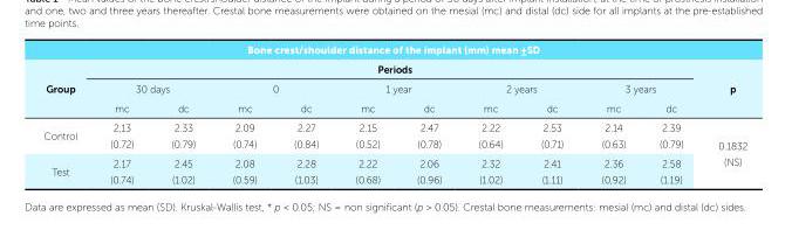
<table><thead><tr><td colspan="12">Bone crest/shoulder distance of the implant (mm) mean ±SD</td></tr><tr><td rowspan="3">Group</td><td colspan="10">Periods</td><td rowspan="3">p</td></tr><tr><td colspan="2">30 days</td><td colspan="2">0</td><td colspan="2">1 year</td><td colspan="2">2 years</td><td colspan="2">3 years</td></tr><tr><td>mc</td><td>dc</td><td>mc</td><td>dc</td><td>mc</td><td>dc</td><td>mc</td><td>dc</td><td>mc</td><td>dc</td></tr></thead><tbody><tr><td>Control</td><td>2,13 (0.72)</td><td>2.33 (0.79)</td><td>2.09 (0.74)</td><td>2.27 (0.84)</td><td>2.15 (0.52)</td><td>2.47 (0.78)</td><td>2.22 (0.64)</td><td>2.53 (0.71)</td><td>2.14 (0.63)</td><td>2.39 (0.79)</td><td rowspan="2">0.1832 (NS)</td></tr><tr><td>Test</td><td>2.17 (0.74)</td><td>2.45 (1.02)</td><td>2.08 (0.59)</td><td>2.28 (1.03)</td><td>2.22 (0.68)</td><td>2.06 (0.96)</td><td>2.32 (1.02)</td><td>2.41 (1.11)</td><td>2.36 (0,92)</td><td>2.58 (1.19)</td></tr></tbody></table>